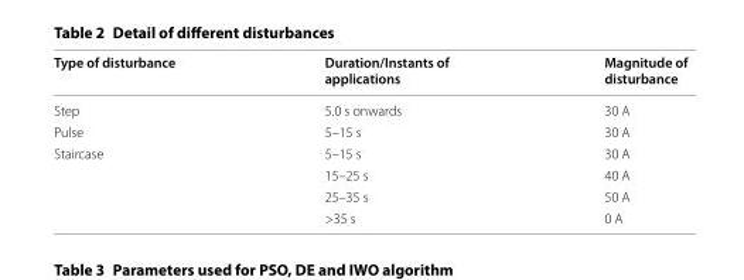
<table><thead><tr><td>Type of disturbance</td><td>Duration/Instants of applications</td><td>Magnitude of disturbance</td></tr></thead><tbody><tr><td>Step</td><td>5.0 s onwards</td><td>30 A</td></tr><tr><td>Pulse</td><td>5–15 s</td><td>30 A</td></tr><tr><td rowspan="4">Staircase</td><td>5–15 s</td><td>30 A</td></tr><tr><td>15–25 s</td><td>40 A</td></tr><tr><td>25–35 s</td><td>50 A</td></tr><tr><td>&gt;35 s</td><td>0 A</td></tr></tbody></table>